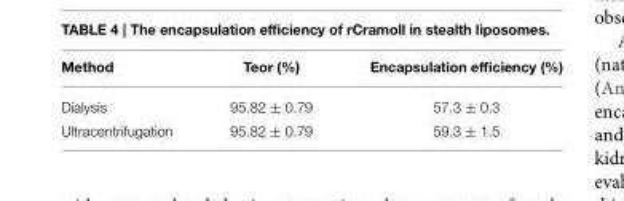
<table><thead><tr><td>Method</td><td>Teor (%)</td><td>Encapsulation efficiency (%)</td></tr></thead><tbody><tr><td>Dialysis</td><td>95.82 ± 0.79</td><td>57.3 ± 0.3</td></tr><tr><td>Ultracentrifugation</td><td>95.82 ± 0.79</td><td>59.3 ± 1.5</td></tr></tbody></table>